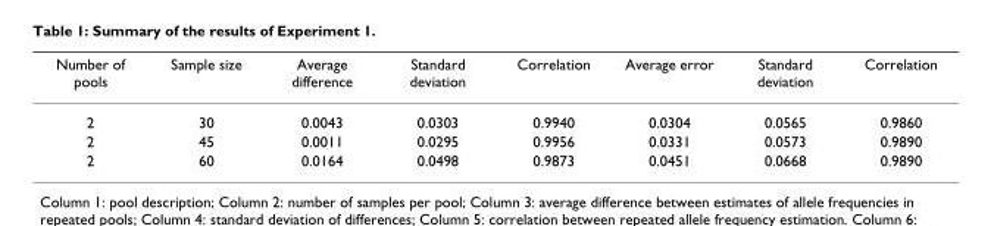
<table><thead><tr><td>Number of pools</td><td>Sample size</td><td>Average difference</td><td>Standard deviation</td><td>Correlation</td><td>Average error</td><td>Standard deviation</td><td>Correlation</td></tr></thead><tbody><tr><td>2</td><td>30</td><td>0.0043</td><td>0.0303</td><td>0.9940</td><td>0.0304</td><td>0.0565</td><td>0.9860</td></tr><tr><td>2</td><td>45</td><td>0.0011</td><td>0.0295</td><td>0.9956</td><td>0.0331</td><td>0.0573</td><td>0.9890</td></tr><tr><td>2</td><td>60</td><td>0.0164</td><td>0.0498</td><td>0.9873</td><td>0.0451</td><td>0.0668</td><td>0.9890</td></tr></tbody></table>